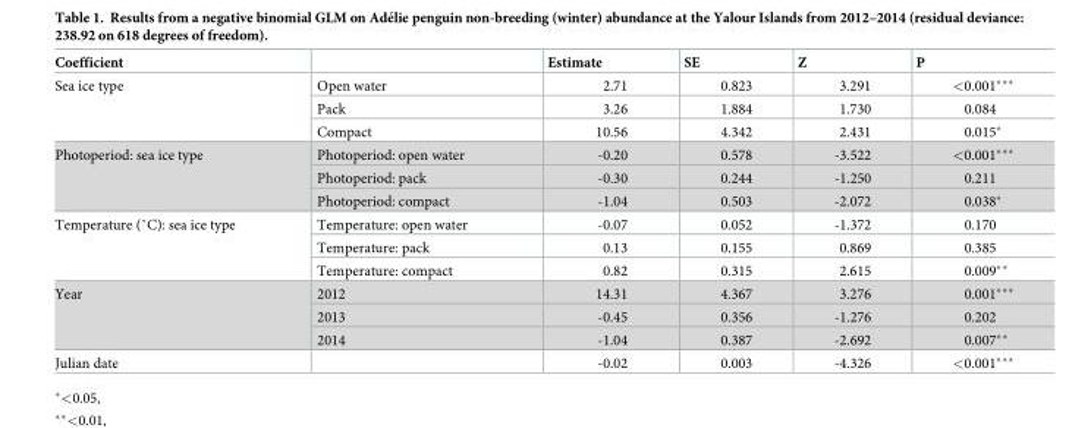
<table><thead><tr><td>Coefficient</td><td></td><td>Estimate</td><td>SE</td><td>Z</td><td>P</td></tr></thead><tbody><tr><td rowspan="3">Sea ice type</td><td>Open water</td><td>2.71</td><td>0.823</td><td>3.291</td><td>&lt;0.001***</td></tr><tr><td>Pack</td><td>3.26</td><td>1.884</td><td>1.730</td><td>0.084</td></tr><tr><td>Compact</td><td>10.56</td><td>4.342</td><td>2.431</td><td>0.015*</td></tr><tr><td rowspan="3">Photoperiod: sea ice type</td><td>Photoperiod: open water</td><td>-0.20</td><td>0.578</td><td>-3.522</td><td>&lt;0.001***</td></tr><tr><td>Photoperiod: pack</td><td>-0.30</td><td>0.244</td><td>-1.250</td><td>0.211</td></tr><tr><td>Photoperiod: compact</td><td>-1.04</td><td>0.503</td><td>-2.072</td><td>0.038*</td></tr><tr><td rowspan="3">Temperature (˚C): sea ice type</td><td>Temperature: open water</td><td>-0.07</td><td>0.052</td><td>-1.372</td><td>0.170</td></tr><tr><td>Temperature: pack</td><td>0.13</td><td>0.155</td><td>0.869</td><td>0.385</td></tr><tr><td>Temperature: compact</td><td>0.82</td><td>0.315</td><td>2.615</td><td>0.009**</td></tr><tr><td rowspan="3">Year</td><td>2012</td><td>14.31</td><td>4.367</td><td>3.276</td><td>0.001***</td></tr><tr><td>2013</td><td>-0.45</td><td>0.356</td><td>-1.276</td><td>0.202</td></tr><tr><td>2014</td><td>-1.04</td><td>0.387</td><td>-2.692</td><td>0.007**</td></tr><tr><td>Julian date</td><td></td><td>-0.02</td><td>0.003</td><td>-4.326</td><td>&lt;0.001***</td></tr></tbody></table>